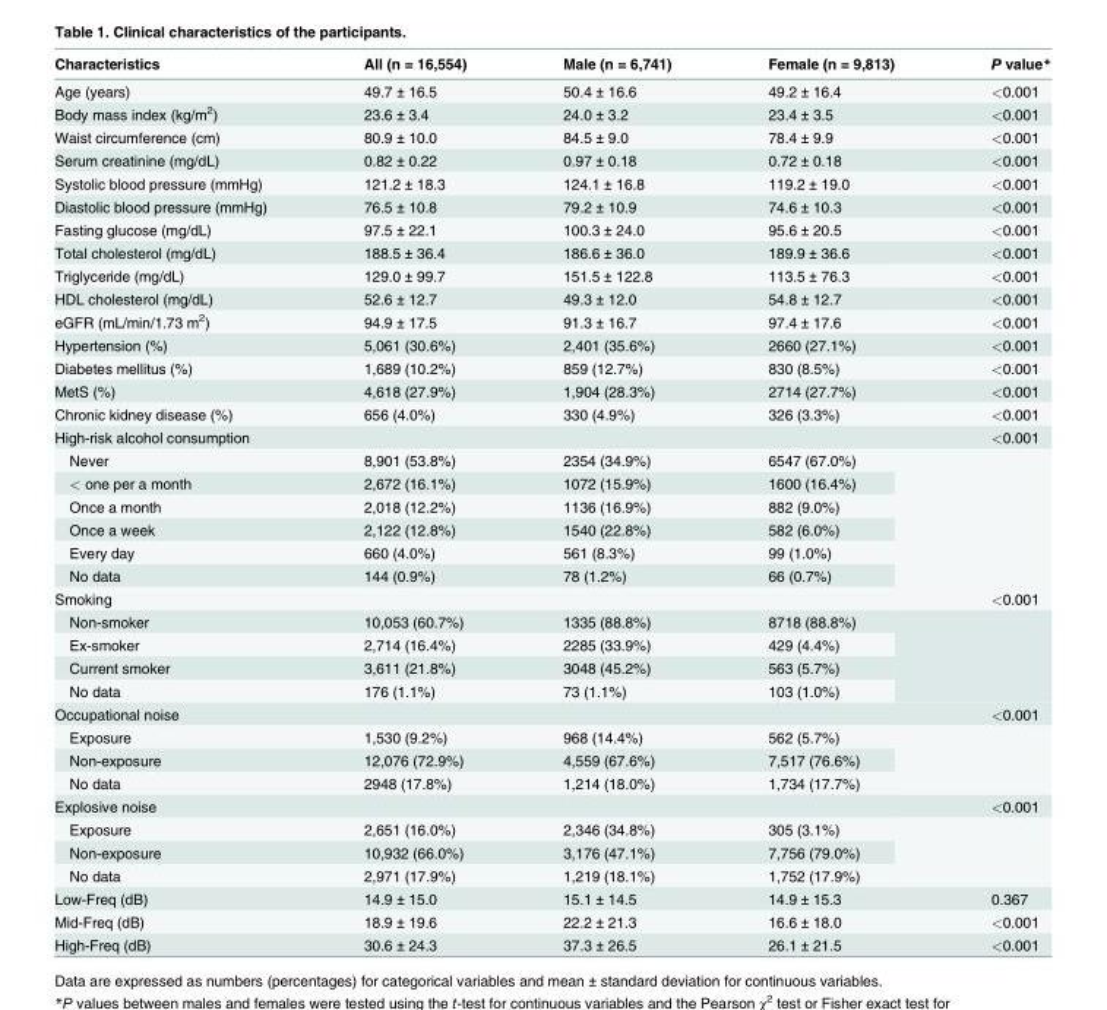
<table><thead><tr><td>Characteristics</td><td>All (n = 16,554)</td><td>Male (n = 6,741)</td><td>Female (n = 9,813)</td><td>P value*</td></tr></thead><tbody><tr><td>Age (years)</td><td>49.7 ± 16.5</td><td>50.4 ± 16.6</td><td>49.2 ± 16.4</td><td>&lt;0.001</td></tr><tr><td>Body mass index (kg/m<sup>2</sup>)</td><td>23.6 ± 3.4</td><td>24.0 ± 3.2</td><td>23.4 ± 3.5</td><td>&lt;0.001</td></tr><tr><td>Waist circumference (cm)</td><td>80.9 ± 10.0</td><td>84.5 ± 9.0</td><td>78.4 ± 9.9</td><td>&lt;0.001</td></tr><tr><td>Serum creatinine (mg/dL)</td><td>0.82 ± 0.22</td><td>0.97 ± 0.18</td><td>0.72 ± 0.18</td><td>&lt;0.001</td></tr><tr><td>Systolic blood pressure (mmHg)</td><td>121.2 ± 18.3</td><td>124.1 ± 16.8</td><td>119.2 ± 19.0</td><td>&lt;0.001</td></tr><tr><td>Diastolic blood pressure (mmHg)</td><td>76.5 ± 10.8</td><td>79.2 ± 10.9</td><td>74.6 ± 10.3</td><td>&lt;0.001</td></tr><tr><td>Fasting glucose (mg/dL)</td><td>97.5 ± 22.1</td><td>100.3 ± 24.0</td><td>95.6 ± 20.5</td><td>&lt;0.001</td></tr><tr><td>Total cholesterol (mg/dL)</td><td>188.5 ± 36.4</td><td>186.6 ± 36.0</td><td>189.9 ± 36.6</td><td>&lt;0.001</td></tr><tr><td>Triglyceride (mg/dL)</td><td>129.0 ± 99.7</td><td>151.5 ± 122.8</td><td>113.5 ± 76.3</td><td>&lt;0.001</td></tr><tr><td>HDL cholesterol (mg/dL)</td><td>52.6 ± 12.7</td><td>49.3 ± 12.0</td><td>54.8 ± 12.7</td><td>&lt;0.001</td></tr><tr><td>eGFR (mL/min/1.73 m<sup>2</sup>)</td><td>94.9 ± 17.5</td><td>91.3 ± 16.7</td><td>97.4 ± 17.6</td><td>&lt;0.001</td></tr><tr><td>Hypertension (%)</td><td>5,061 (30.6%)</td><td>2,401 (35.6%)</td><td>2660 (27.1%)</td><td>&lt;0.001</td></tr><tr><td>Diabetes mellitus (%)</td><td>1,689 (10.2%)</td><td>859 (12.7%)</td><td>830 (8.5%)</td><td>&lt;0.001</td></tr><tr><td>MetS (%)</td><td>4,618 (27.9%)</td><td>1,904 (28.3%)</td><td>2714 (27.7%)</td><td>&lt;0.001</td></tr><tr><td>Chronic kidney disease (%)</td><td>656 (4.0%)</td><td>330 (4.9%)</td><td>326 (3.3%)</td><td>&lt;0.001</td></tr><tr><td>High-risk alcohol consumption</td><td colspan="3"></td><td>&lt;0.001</td></tr><tr><td>Never</td><td>8,901 (53.8%)</td><td>2354 (34.9%)</td><td>6547 (67.0%)</td><td rowspan="6"></td></tr><tr><td>&lt; one per a month</td><td>2,672 (16.1%)</td><td>1072 (15.9%)</td><td>1600 (16.4%)</td></tr><tr><td>Once a month</td><td>2,018 (12.2%)</td><td>1136 (16.9%)</td><td>882 (9.0%)</td></tr><tr><td>Once a week</td><td>2,122 (12.8%)</td><td>1540 (22.8%)</td><td>582 (6.0%)</td></tr><tr><td>Every day</td><td>660 (4.0%)</td><td>561 (8.3%)</td><td>99 (1.0%)</td></tr><tr><td>No data</td><td>144 (0.9%)</td><td>78 (1.2%)</td><td>66 (0.7%)</td></tr><tr><td>Smoking</td><td colspan="3"></td><td>&lt;0.001</td></tr><tr><td>Non-smoker</td><td>10,053 (60.7%)</td><td>1335 (88.8%)</td><td>8718 (88.8%)</td><td rowspan="4"></td></tr><tr><td>Ex-smoker</td><td>2,714 (16.4%)</td><td>2285 (33.9%)</td><td>429 (4.4%)</td></tr><tr><td>Current smoker</td><td>3,611 (21.8%)</td><td>3048 (45.2%)</td><td>563 (5.7%)</td></tr><tr><td>No data</td><td>176 (1.1%)</td><td>73 (1.1%)</td><td>103 (1.0%)</td></tr><tr><td>Occupational noise</td><td colspan="3"></td><td>&lt;0.001</td></tr><tr><td>Exposure</td><td>1,530 (9.2%)</td><td>968 (14.4%)</td><td>562 (5.7%)</td><td rowspan="3"></td></tr><tr><td>Non-exposure</td><td>12,076 (72.9%)</td><td>4,559 (67.6%)</td><td>7,517 (76.6%)</td></tr><tr><td>No data</td><td>2948 (17.8%)</td><td>1,214 (18.0%)</td><td>1,734 (17.7%)</td></tr><tr><td>Explosive noise</td><td colspan="3"></td><td>&lt;0.001</td></tr><tr><td>Exposure</td><td>2,651 (16.0%)</td><td>2,346 (34.8%)</td><td>305 (3.1%)</td><td rowspan="3"></td></tr><tr><td>Non-exposure</td><td>10,932 (66.0%)</td><td>3,176 (47.1%)</td><td>7,756 (79.0%)</td></tr><tr><td>No data</td><td>2,971 (17.9%)</td><td>1,219 (18.1%)</td><td>1,752 (17.9%)</td></tr><tr><td>Low-Freq (dB)</td><td>14.9 ± 15.0</td><td>15.1 ± 14.5</td><td>14.9 ± 15.3</td><td>0.367</td></tr><tr><td>Mid-Freq (dB)</td><td>18.9 ± 19.6</td><td>22.2 ± 21.3</td><td>16.6 ± 18.0</td><td>&lt;0.001</td></tr><tr><td>High-Freq (dB)</td><td>30.6 ± 24.3</td><td>37.3 ± 26.5</td><td>26.1 ± 21.5</td><td>&lt;0.001</td></tr></tbody></table>